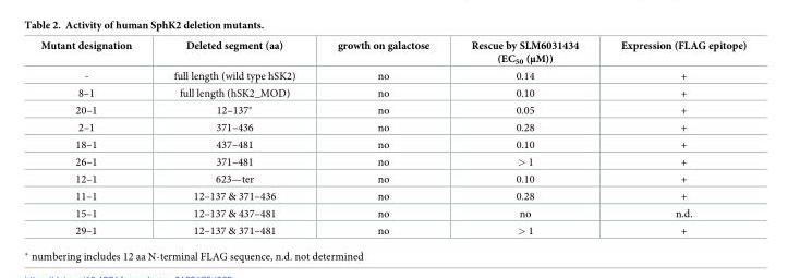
<table><thead><tr><td>Mutant designation</td><td>Deleted segment (aa)</td><td>growth on galactose</td><td>Rescue by SLM6031434 (EC<sub>50</sub> (μM))</td><td>Expression (FLAG epitope)</td></tr></thead><tbody><tr><td>-</td><td>full length (wild type hSK2)</td><td>no</td><td>0.14</td><td>+</td></tr><tr><td>8–1</td><td>full length (hSK2_MOD)</td><td>no</td><td>0.10</td><td>+</td></tr><tr><td>20–1</td><td>12–137*</td><td>no</td><td>0.05</td><td>+</td></tr><tr><td>2–1</td><td>371–436</td><td>no</td><td>0.28</td><td>+</td></tr><tr><td>18–1</td><td>437–481</td><td>no</td><td>0.10</td><td>+</td></tr><tr><td>26–1</td><td>371–481</td><td>no</td><td>&gt; 1</td><td>+</td></tr><tr><td>12–1</td><td>623—ter</td><td>no</td><td>0.10</td><td>+</td></tr><tr><td>11–1</td><td>12–137 &amp; 371–436</td><td>no</td><td>0.28</td><td>+</td></tr><tr><td>15–1</td><td>12–137 &amp; 437–481</td><td>no</td><td>no</td><td>n.d.</td></tr><tr><td>29–1</td><td>12–137 &amp; 371–481</td><td>no</td><td>&gt; 1</td><td>+</td></tr></tbody></table>